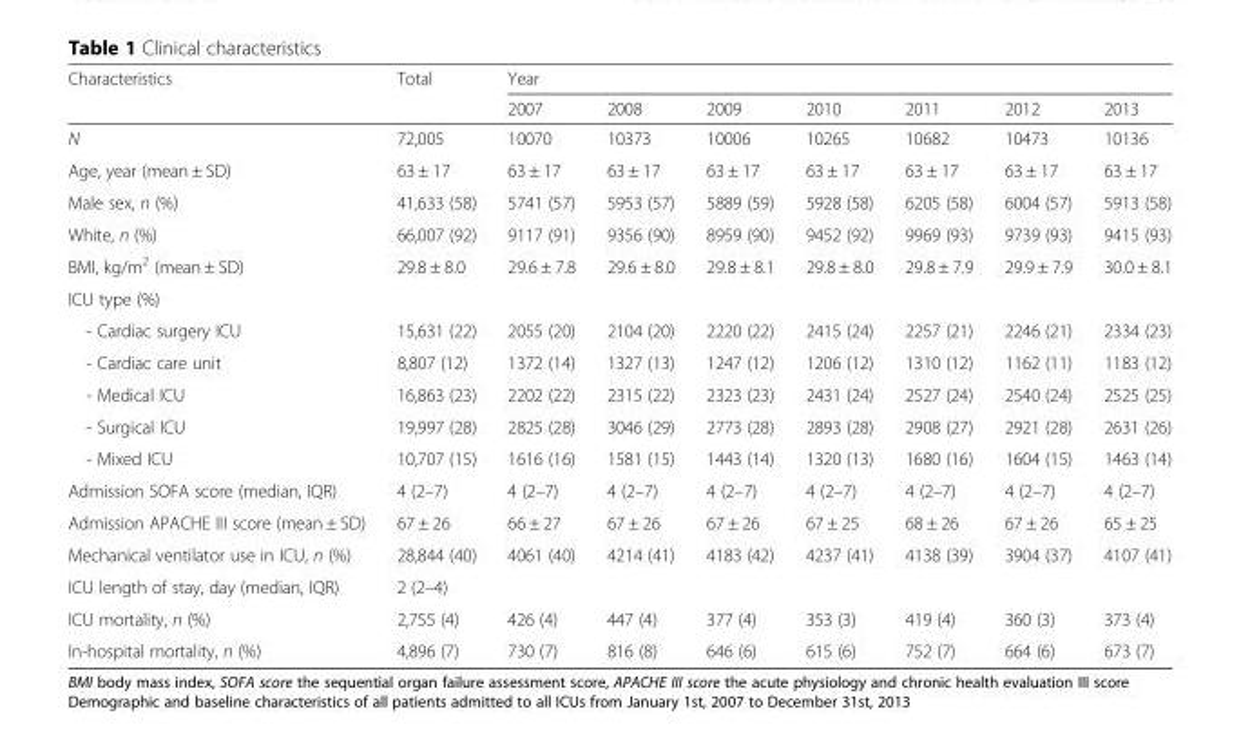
<table><thead><tr><td rowspan="2">Characteristics</td><td rowspan="2">Total</td><td colspan="7">Year</td></tr><tr><td>2007</td><td>2008</td><td>2009</td><td>2010</td><td>2011</td><td>2012</td><td>2013</td></tr></thead><tbody><tr><td>N</td><td>72,005</td><td>10070</td><td>10373</td><td>10006</td><td>10265</td><td>10682</td><td>10473</td><td>10136</td></tr><tr><td>Age, year (mean ± SD)</td><td>63 ± 17</td><td>63 ± 17</td><td>63 ± 17</td><td>63 ± 17</td><td>63 ± 17</td><td>63 ± 17</td><td>63 ± 17</td><td>63 ± 17</td></tr><tr><td>Male sex, n (%)</td><td>41,633 (58)</td><td>5741 (57)</td><td>5953 (57)</td><td>5889 (59)</td><td>5928 (58)</td><td>6205 (58)</td><td>6004 (57)</td><td>5913 (58)</td></tr><tr><td>White, n (%)</td><td>66,007 (92)</td><td>9117 (91)</td><td>9356 (90)</td><td>8959 (90)</td><td>9452 (92)</td><td>9969 (93)</td><td>9739 (93)</td><td>9415 (93)</td></tr><tr><td>BMI, kg/m<sup>2</sup> (mean ± SD)</td><td>29.8 ± 8.0</td><td>29.6 ± 7.8</td><td>29.6 ± 8.0</td><td>29.8 ± 8.1</td><td>29.8 ± 8.0</td><td>29.8 ± 7.9</td><td>29.9 ± 7.9</td><td>30.0 ± 8.1</td></tr><tr><td colspan="9">ICU type (%)</td></tr><tr><td>- Cardiac surgery ICU</td><td>15,631 (22)</td><td>2055 (20)</td><td>2104 (20)</td><td>2220 (22)</td><td>2415 (24)</td><td>2257 (21)</td><td>2246 (21)</td><td>2334 (23)</td></tr><tr><td>- Cardiac care unit</td><td>8,807 (12)</td><td>1372 (14)</td><td>1327 (13)</td><td>1247 (12)</td><td>1206 (12)</td><td>1310 (12)</td><td>1162 (11)</td><td>1183 (12)</td></tr><tr><td>- Medical ICU</td><td>16,863 (23)</td><td>2202 (22)</td><td>2315 (22)</td><td>2323 (23)</td><td>2431 (24)</td><td>2527 (24)</td><td>2540 (24)</td><td>2525 (25)</td></tr><tr><td>- Surgical ICU</td><td>19,997 (28)</td><td>2825 (28)</td><td>3046 (29)</td><td>2773 (28)</td><td>2893 (28)</td><td>2908 (27)</td><td>2921 (28)</td><td>2631 (26)</td></tr><tr><td>- Mixed ICU</td><td>10,707 (15)</td><td>1616 (16)</td><td>1581 (15)</td><td>1443 (14)</td><td>1320 (13)</td><td>1680 (16)</td><td>1604 (15)</td><td>1463 (14)</td></tr><tr><td>Admission SOFA score (median, IQR)</td><td>4 (2–7)</td><td>4 (2–7)</td><td>4 (2–7)</td><td>4 (2–7)</td><td>4 (2–7)</td><td>4 (2–7)</td><td>4 (2–7)</td><td>4 (2–7)</td></tr><tr><td>Admission APACHE III score (mean ± SD)</td><td>67 ± 26</td><td>66 ± 27</td><td>67 ± 26</td><td>67 ± 26</td><td>67 ± 25</td><td>68 ± 26</td><td>67 ± 26</td><td>65 ± 25</td></tr><tr><td>Mechanical ventilator use in ICU, n (%)</td><td>28,844 (40)</td><td>4061 (40)</td><td>4214 (41)</td><td>4183 (42)</td><td>4237 (41)</td><td>4138 (39)</td><td>3904 (37)</td><td>4107 (41)</td></tr><tr><td>ICU length of stay, day (median, IQR)</td><td>2 (2–4)</td><td></td><td></td><td></td><td></td><td></td><td></td><td></td></tr><tr><td>ICU mortality, n (%)</td><td>2,755 (4)</td><td>426 (4)</td><td>447 (4)</td><td>377 (4)</td><td>353 (3)</td><td>419 (4)</td><td>360 (3)</td><td>373 (4)</td></tr><tr><td>In-hospital mortality, n (%)</td><td>4,896 (7)</td><td>730 (7)</td><td>816 (8)</td><td>646 (6)</td><td>615 (6)</td><td>752 (7)</td><td>664 (6)</td><td>673 (7)</td></tr></tbody></table>